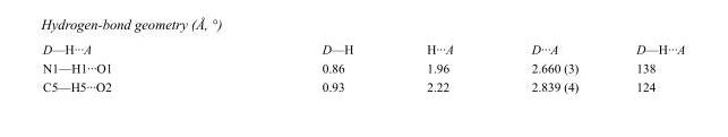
<table><tbody><tr><td>D—H···A</td><td>D—H</td><td>H···A</td><td>D···A</td><td>D—H···A</td></tr><tr><td>N1—H1···O1</td><td>0.86</td><td>1.96</td><td>2.660 (3)</td><td>138</td></tr><tr><td>C5—H5···O2</td><td>0.93</td><td>2.22</td><td>2.839 (4)</td><td>124</td></tr></tbody></table>